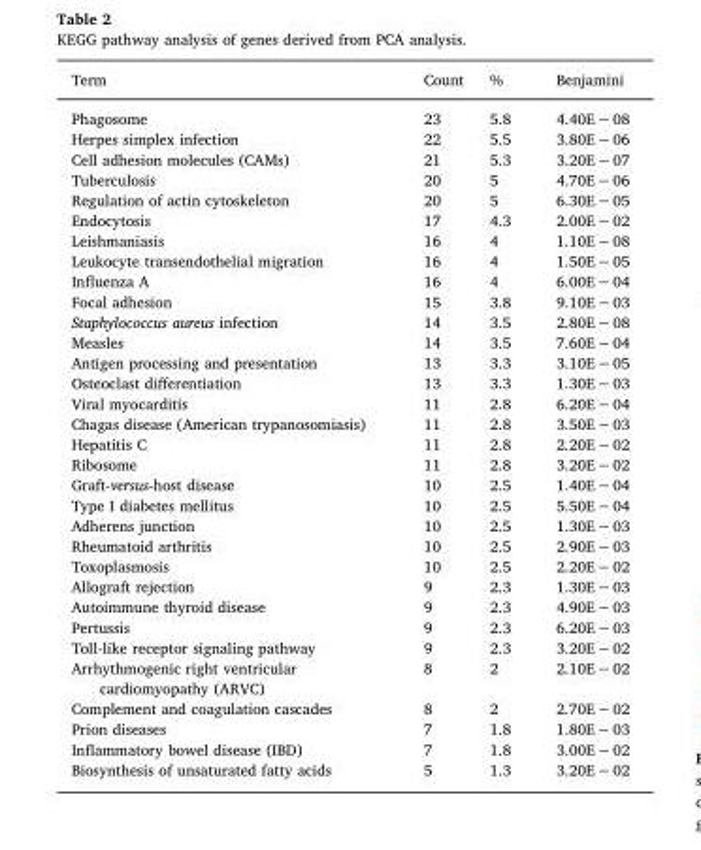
<table><thead><tr><td>Term</td><td>Count</td><td>%</td><td>Benjamini</td></tr></thead><tbody><tr><td>Phagosome</td><td>23</td><td>5.8</td><td>4.40E−08</td></tr><tr><td>Herpes simplex infection</td><td>22</td><td>5.5</td><td>3.80E−06</td></tr><tr><td>Cell adhesion molecules (CAMs)</td><td>21</td><td>5.3</td><td>3.20E−07</td></tr><tr><td>Tuberculosis</td><td>20</td><td>5</td><td>4.70E−06</td></tr><tr><td>Regulation of actin cytoskeleton</td><td>20</td><td>5</td><td>6.30E−05</td></tr><tr><td>Endocytosis</td><td>17</td><td>4.3</td><td>2.00E−02</td></tr><tr><td>Leishmaniasis</td><td>16</td><td>4</td><td>1.10E−08</td></tr><tr><td>Leukocyte transendothelial migration</td><td>16</td><td>4</td><td>1.50E−05</td></tr><tr><td>Influenza A</td><td>16</td><td>4</td><td>6.00E−04</td></tr><tr><td>Focal adhesion</td><td>15</td><td>3.8</td><td>9.10E−03</td></tr><tr><td>Staphylococcus aureus infection</td><td>14</td><td>3.5</td><td>2.80E−08</td></tr><tr><td>Measles</td><td>14</td><td>3.5</td><td>7.60E−04</td></tr><tr><td>Antigen processing and presentation</td><td>13</td><td>3.3</td><td>3.10E−05</td></tr><tr><td>Osteoclast differentiation</td><td>13</td><td>3.3</td><td>1.30E−03</td></tr><tr><td>Viral myocarditis</td><td>11</td><td>2.8</td><td>6.20E−04</td></tr><tr><td>Chagas disease (American trypanosomiasis)</td><td>11</td><td>2.8</td><td>3.50E−03</td></tr><tr><td>Hepatitis C</td><td>11</td><td>2.8</td><td>2.20E−02</td></tr><tr><td>Ribosome</td><td>11</td><td>2.8</td><td>3.20E−02</td></tr><tr><td>Graft-versus-host disease</td><td>10</td><td>2.5</td><td>1.40E−04</td></tr><tr><td>Type I diabetes mellitus</td><td>10</td><td>2.5</td><td>5.50E−04</td></tr><tr><td>Adherens junction</td><td>10</td><td>2.5</td><td>1.30E−03</td></tr><tr><td>Rheumatoid arthritis</td><td>10</td><td>2.5</td><td>2.90E−03</td></tr><tr><td>Toxoplasmosis</td><td>10</td><td>2.5</td><td>2.20E−02</td></tr><tr><td>Allograft rejection</td><td>9</td><td>2.3</td><td>1.30E−03</td></tr><tr><td>Autoimmune thyroid disease</td><td>9</td><td>2.3</td><td>4.90E−03</td></tr><tr><td>Pertussis</td><td>9</td><td>2.3</td><td>6.20E−03</td></tr><tr><td>Toll-like receptor signaling pathway</td><td>9</td><td>2.3</td><td>3.20E−02</td></tr><tr><td>Arrhythmogenic right ventricular cardiomyopathy (ARVC)</td><td>8</td><td>2</td><td>2.10E−02</td></tr><tr><td>Complement and coagulation cascades</td><td>8</td><td>2</td><td>2.70E−02</td></tr><tr><td>Prion diseases</td><td>7</td><td>1.8</td><td>1.80E−03</td></tr><tr><td>Inflammatory bowel disease (IBD)</td><td>7</td><td>1.8</td><td>3.00E−02</td></tr><tr><td>Biosynthesis of unsaturated fatty acids</td><td>5</td><td>1.3</td><td>3.20E−02</td></tr></tbody></table>